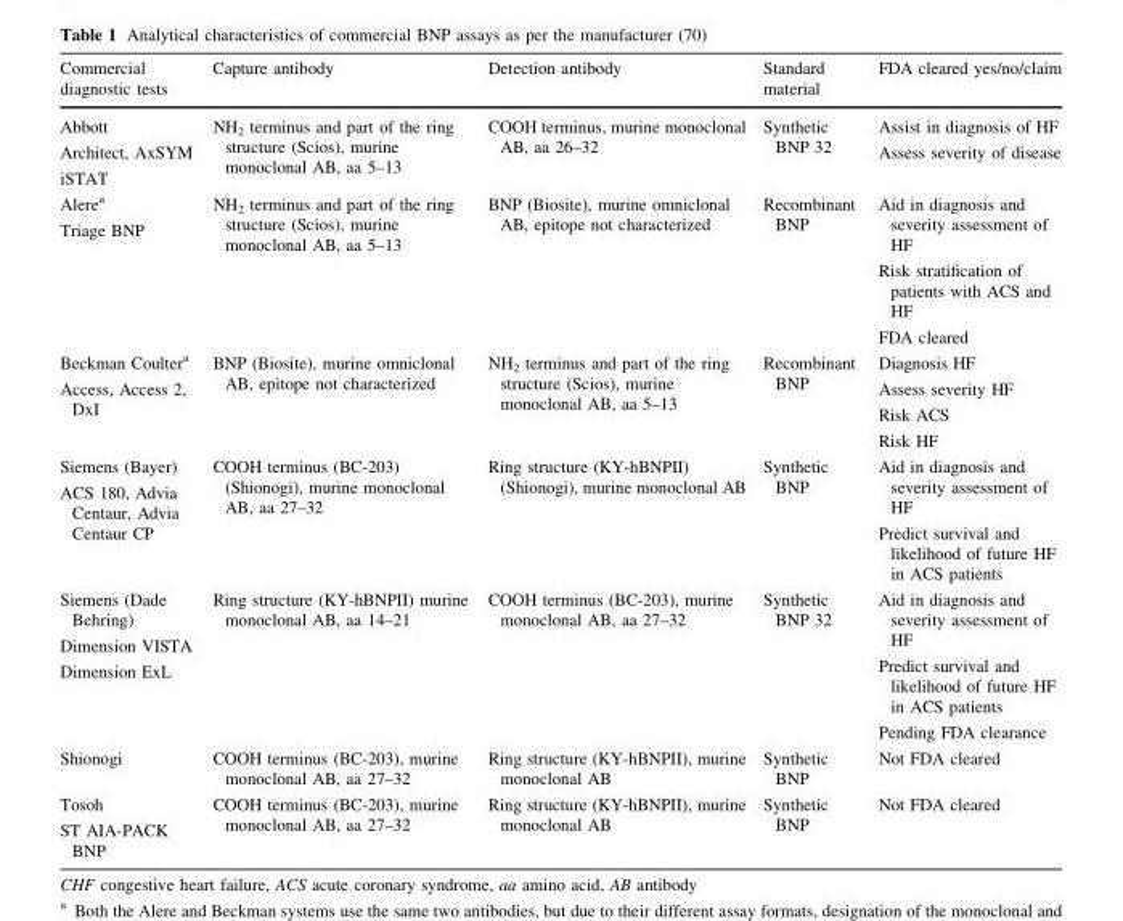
<table><thead><tr><td>Commercial diagnostic tests</td><td>Capture antibody</td><td>Detection antibody</td><td>Standard material</td><td>FDA cleared yes/no/claim</td></tr></thead><tbody><tr><td>Abbott Architect, AxSYM iSTAT</td><td>NH<sub>2</sub> terminus and part of the ring structure (Scios), murine monoclonal AB, aa 5–13</td><td>COOH terminus, murine monoclonal AB, aa 26–32</td><td>Synthetic BNP 32</td><td>Assist in diagnosis of HF Assess severity of disease</td></tr><tr><td>Alere<sup>a</sup> Triage BNP</td><td>NH<sub>2</sub> terminus and part of the ring structure (Scios), murine monoclonal AB, aa 5–13</td><td>BNP (Biosite), murine omniclonal AB, epitope not characterized</td><td>Recombinant BNP</td><td>Aid in diagnosis and severity assessment of HF Risk stratification of patients with ACS and HF FDA cleared</td></tr><tr><td>Beckman Coulter<sup>a</sup> Access, Access 2, DxI</td><td>BNP (Biosite), murine omniclonal AB, epitope not characterized</td><td>NH<sub>2</sub> terminus and part of the ring structure (Scios), murine monoclonal AB, aa 5–13</td><td>Recombinant BNP</td><td>Diagnosis HF Assess severity HF Risk ACS Risk HF</td></tr><tr><td>Siemens (Bayer) ACS 180, Advia Centaur, Advia Centaur CP</td><td>COOH terminus (BC-203) (Shionogi), murine monoclonal AB, aa 27–32</td><td>Ring structure (KY-hBNPII) (Shionogi), murine monoclonal AB</td><td>Synthetic BNP</td><td>Aid in diagnosis and severity assessment of HF Predict survival and likelihood of future HF in ACS patients</td></tr><tr><td>Siemens (Dade Behring) Dimension VISTA Dimension ExL</td><td>Ring structure (KY-hBNPII) murine monoclonal AB, aa 14–21</td><td>COOH terminus (BC-203), murine monoclonal AB, aa 27–32</td><td>Synthetic BNP 32</td><td>Aid in diagnosis and severity assessment of HF Predict survival and likelihood of future HF in ACS patients Pending FDA clearance</td></tr><tr><td>Shionogi</td><td>COOH terminus (BC-203), murine monoclonal AB, aa 27–32</td><td>Ring structure (KY-hBNPII), murine monoclonal AB</td><td>Synthetic BNP</td><td>Not FDA cleared</td></tr><tr><td>Tosoh ST AIA-PACK BNP</td><td>COOH terminus (BC-203), murine monoclonal AB, aa 27–32</td><td>Ring structure (KY-hBNPII), murine monoclonal AB</td><td>Synthetic BNP</td><td>Not FDA cleared</td></tr></tbody></table>